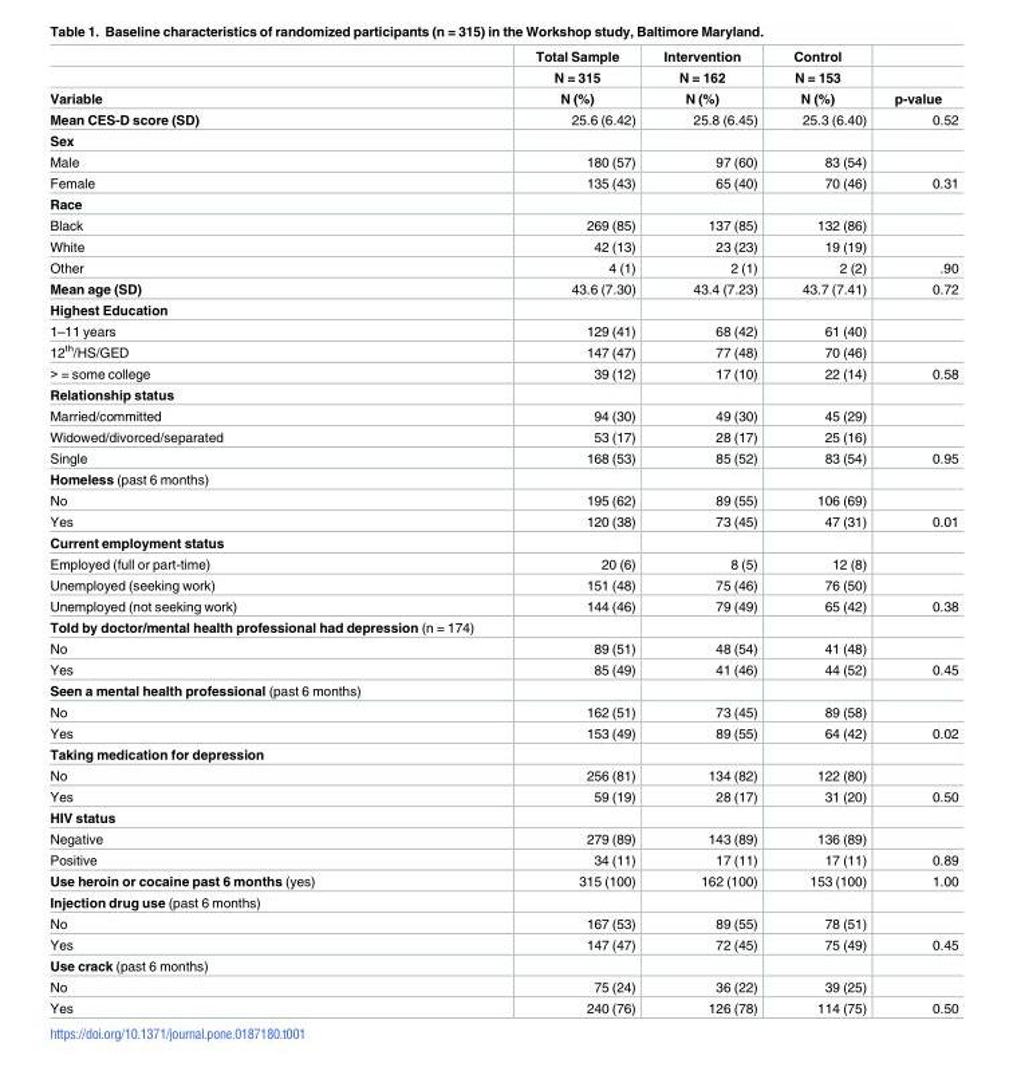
<table><thead><tr><td rowspan="3">Variable</td><td rowspan="3">Total Sample N = 315 N (%)</td><td rowspan="3">Intervention N = 162 N (%)</td><td rowspan="3">Control N = 153 N (%)</td><td rowspan="3">p-value</td></tr><tr></tr><tr></tr></thead><tbody><tr><td>Mean CES-D score (SD)</td><td>25.6 (6.42)</td><td>25.8 (6.45)</td><td>25.3 (6.40)</td><td>0.52</td></tr><tr><td colspan="5">Sex</td></tr><tr><td>Male</td><td>180 (57)</td><td>97 (60)</td><td>83 (54)</td><td></td></tr><tr><td>Female</td><td>135 (43)</td><td>65 (40)</td><td>70 (46)</td><td>0.31</td></tr><tr><td colspan="5">Race</td></tr><tr><td>Black</td><td>269 (85)</td><td>137 (85)</td><td>132 (86)</td><td></td></tr><tr><td>White</td><td>42 (13)</td><td>23 (23)</td><td>19 (19)</td><td></td></tr><tr><td>Other</td><td>4 (1)</td><td>2 (1)</td><td>2 (2)</td><td>.90</td></tr><tr><td>Mean age (SD)</td><td>43.6 (7.30)</td><td>43.4 (7.23)</td><td>43.7 (7.41)</td><td>0.72</td></tr><tr><td colspan="5">Highest Education</td></tr><tr><td>1–11 years</td><td>129 (41)</td><td>68 (42)</td><td>61 (40)</td><td></td></tr><tr><td>12<sup>th</sup>/HS/GED</td><td>147 (47)</td><td>77 (48)</td><td>70 (46)</td><td></td></tr><tr><td>&gt; = some college</td><td>39 (12)</td><td>17 (10)</td><td>22 (14)</td><td>0.58</td></tr><tr><td colspan="5">Relationship status</td></tr><tr><td>Married/committed</td><td>94 (30)</td><td>49 (30)</td><td>45 (29)</td><td></td></tr><tr><td>Widowed/divorced/separated</td><td>53 (17)</td><td>28 (17)</td><td>25 (16)</td><td></td></tr><tr><td>Single</td><td>168 (53)</td><td>85 (52)</td><td>83 (54)</td><td>0.95</td></tr><tr><td colspan="5">Homeless (past 6 months)</td></tr><tr><td>No</td><td>195 (62)</td><td>89 (55)</td><td>106 (69)</td><td></td></tr><tr><td>Yes</td><td>120 (38)</td><td>73 (45)</td><td>47 (31)</td><td>0.01</td></tr><tr><td colspan="5">Current employment status</td></tr><tr><td>Employed (full or part-time)</td><td>20 (6)</td><td>8 (5)</td><td>12 (8)</td><td></td></tr><tr><td>Unemployed (seeking work)</td><td>151 (48)</td><td>75 (46)</td><td>76 (50)</td><td></td></tr><tr><td>Unemployed (not seeking work)</td><td>144 (46)</td><td>79 (49)</td><td>65 (42)</td><td>0.38</td></tr><tr><td colspan="5">Told by doctor/mental health professional had depression (n = 174)</td></tr><tr><td>No</td><td>89 (51)</td><td>48 (54)</td><td>41 (48)</td><td></td></tr><tr><td>Yes</td><td>85 (49)</td><td>41 (46)</td><td>44 (52)</td><td>0.45</td></tr><tr><td colspan="5">Seen a mental health professional (past 6 months)</td></tr><tr><td>No</td><td>162 (51)</td><td>73 (45)</td><td>89 (58)</td><td></td></tr><tr><td>Yes</td><td>153 (49)</td><td>89 (55)</td><td>64 (42)</td><td>0.02</td></tr><tr><td colspan="5">Taking medication for depression</td></tr><tr><td>No</td><td>256 (81)</td><td>134 (82)</td><td>122 (80)</td><td></td></tr><tr><td>Yes</td><td>59 (19)</td><td>28 (17)</td><td>31 (20)</td><td>0.50</td></tr><tr><td colspan="5">HIV status</td></tr><tr><td>Negative</td><td>279 (89)</td><td>143 (89)</td><td>136 (89)</td><td></td></tr><tr><td>Positive</td><td>34 (11)</td><td>17 (11)</td><td>17 (11)</td><td>0.89</td></tr><tr><td>Use heroin or cocaine past 6 months (yes)</td><td>315 (100)</td><td>162 (100)</td><td>153 (100)</td><td>1.00</td></tr><tr><td colspan="5">Injection drug use (past 6 months)</td></tr><tr><td>No</td><td>167 (53)</td><td>89 (55)</td><td>78 (51)</td><td></td></tr><tr><td>Yes</td><td>147 (47)</td><td>72 (45)</td><td>75 (49)</td><td>0.45</td></tr><tr><td colspan="5">Use crack (past 6 months)</td></tr><tr><td>No</td><td>75 (24)</td><td>36 (22)</td><td>39 (25)</td><td></td></tr><tr><td>Yes</td><td>240 (76)</td><td>126 (78)</td><td>114 (75)</td><td>0.50</td></tr></tbody></table>